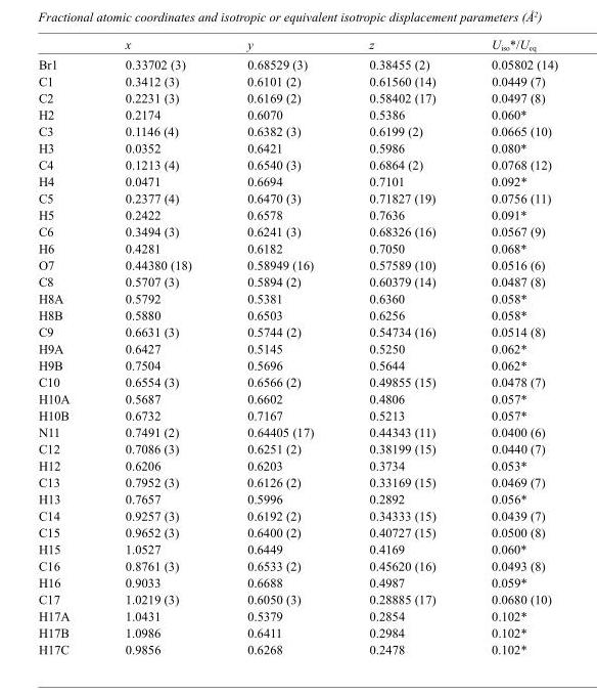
<table><thead><tr><td></td><td>x</td><td>y</td><td>z</td><td>U<sub>iso</sub>*/U<sub>eq</sub></td></tr></thead><tbody><tr><td>Br1</td><td>0.33702 (3)</td><td>0.68529 (3)</td><td>0.38455 (2)</td><td>0.05802 (14)</td></tr><tr><td>C1</td><td>0.3412 (3)</td><td>0.6101 (2)</td><td>0.61560 (14)</td><td>0.0449 (7)</td></tr><tr><td>C2</td><td>0.2231 (3)</td><td>0.6169 (2)</td><td>0.58402 (17)</td><td>0.0497 (8)</td></tr><tr><td>H2</td><td>0.2174</td><td>0.6070</td><td>0.5386</td><td>0.060*</td></tr><tr><td>C3</td><td>0.1146 (4)</td><td>0.6382 (3)</td><td>0.6199 (2)</td><td>0.0665 (10)</td></tr><tr><td>H3</td><td>0.0352</td><td>0.6421</td><td>0.5986</td><td>0.080*</td></tr><tr><td>C4</td><td>0.1213 (4)</td><td>0.6540 (3)</td><td>0.6864 (2)</td><td>0.0768 (12)</td></tr><tr><td>H4</td><td>0.0471</td><td>0.6694</td><td>0.7101</td><td>0.092*</td></tr><tr><td>C5</td><td>0.2377 (4)</td><td>0.6470 (3)</td><td>0.71827 (19)</td><td>0.0756 (11)</td></tr><tr><td>H5</td><td>0.2422</td><td>0.6578</td><td>0.7636</td><td>0.091*</td></tr><tr><td>C6</td><td>0.3494 (3)</td><td>0.6241 (3)</td><td>0.68326 (16)</td><td>0.0567 (9)</td></tr><tr><td>H6</td><td>0.4281</td><td>0.6182</td><td>0.7050</td><td>0.068*</td></tr><tr><td>O7</td><td>0.44380 (18)</td><td>0.58949 (16)</td><td>0.57589 (10)</td><td>0.0516 (6)</td></tr><tr><td>C8</td><td>0.5707 (3)</td><td>0.5894 (2)</td><td>0.60379 (14)</td><td>0.0487 (8)</td></tr><tr><td>H8A</td><td>0.5792</td><td>0.5381</td><td>0.6360</td><td>0.058*</td></tr><tr><td>H8B</td><td>0.5880</td><td>0.6503</td><td>0.6256</td><td>0.058*</td></tr><tr><td>C9</td><td>0.6631 (3)</td><td>0.5744 (2)</td><td>0.54734 (16)</td><td>0.0514 (8)</td></tr><tr><td>H9A</td><td>0.6427</td><td>0.5145</td><td>0.5250</td><td>0.062*</td></tr><tr><td>H9B</td><td>0.7504</td><td>0.5696</td><td>0.5644</td><td>0.062*</td></tr><tr><td>C10</td><td>0.6554 (3)</td><td>0.6566 (2)</td><td>0.49855 (15)</td><td>0.0478 (7)</td></tr><tr><td>H10A</td><td>0.5687</td><td>0.6602</td><td>0.4806</td><td>0.057*</td></tr><tr><td>H10B</td><td>0.6732</td><td>0.7167</td><td>0.5213</td><td>0.057*</td></tr><tr><td>N11</td><td>0.7491 (2)</td><td>0.64405 (17)</td><td>0.44343 (11)</td><td>0.0400 (6)</td></tr><tr><td>C12</td><td>0.7086 (3)</td><td>0.6251 (2)</td><td>0.38199 (15)</td><td>0.0440 (7)</td></tr><tr><td>H12</td><td>0.6206</td><td>0.6203</td><td>0.3734</td><td>0.053*</td></tr><tr><td>C13</td><td>0.7952 (3)</td><td>0.6126 (2)</td><td>0.33169 (15)</td><td>0.0469 (7)</td></tr><tr><td>H13</td><td>0.7657</td><td>0.5996</td><td>0.2892</td><td>0.056*</td></tr><tr><td>C14</td><td>0.9257 (3)</td><td>0.6192 (2)</td><td>0.34333 (15)</td><td>0.0439 (7)</td></tr><tr><td>C15</td><td>0.9652 (3)</td><td>0.6400 (2)</td><td>0.40727 (15)</td><td>0.0500 (8)</td></tr><tr><td>H15</td><td>1.0527</td><td>0.6449</td><td>0.4169</td><td>0.060*</td></tr><tr><td>C16</td><td>0.8761 (3)</td><td>0.6533 (2)</td><td>0.45620 (16)</td><td>0.0493 (8)</td></tr><tr><td>H16</td><td>0.9033</td><td>0.6688</td><td>0.4987</td><td>0.059*</td></tr><tr><td>C17</td><td>1.0219 (3)</td><td>0.6050 (3)</td><td>0.28885 (17)</td><td>0.0680 (10)</td></tr><tr><td>H17A</td><td>1.0431</td><td>0.5379</td><td>0.2854</td><td>0.102*</td></tr><tr><td>H17B</td><td>1.0986</td><td>0.6411</td><td>0.2984</td><td>0.102*</td></tr><tr><td>H17C</td><td>0.9856</td><td>0.6268</td><td>0.2478</td><td>0.102*</td></tr></tbody></table>